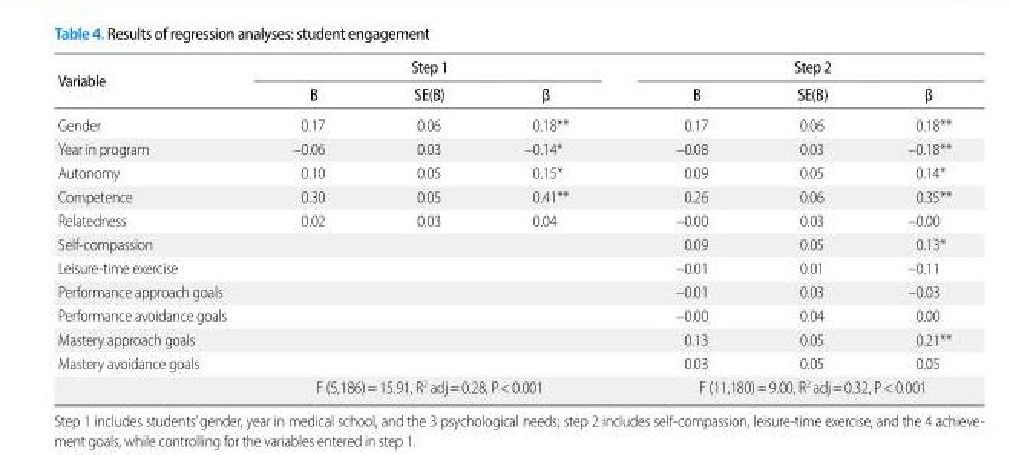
<table><thead><tr><td rowspan="2">Variable</td><td colspan="3">Step 1</td><td colspan="3">Step 2</td></tr><tr><td>B</td><td>SE(B)</td><td>β</td><td>B</td><td>SE(B)</td><td>β</td></tr></thead><tbody><tr><td>Gender</td><td>0.17</td><td>0.06</td><td>0.18**</td><td>0.17</td><td>0.06</td><td>0.18**</td></tr><tr><td>Year in program</td><td>–0.06</td><td>0.03</td><td>–0.14*</td><td>–0.08</td><td>0.03</td><td>–0.18**</td></tr><tr><td>Autonomy</td><td>0.10</td><td>0.05</td><td>0.15*</td><td>0.09</td><td>0.05</td><td>0.14*</td></tr><tr><td>Competence</td><td>0.30</td><td>0.05</td><td>0.41**</td><td>0.26</td><td>0.06</td><td>0.35**</td></tr><tr><td>Relatedness</td><td>0.02</td><td>0.03</td><td>0.04</td><td>–0.00</td><td>0.03</td><td>–0.00</td></tr><tr><td>Self-compassion</td><td></td><td></td><td></td><td>0.09</td><td>0.05</td><td>0.13*</td></tr><tr><td>Leisure-time exercise</td><td></td><td></td><td></td><td>–0.01</td><td>0.01</td><td>–0.11</td></tr><tr><td>Performance approach goals</td><td></td><td></td><td></td><td>–0.01</td><td>0.03</td><td>–0.03</td></tr><tr><td>Performance avoidance goals</td><td></td><td></td><td></td><td>–0.00</td><td>0.04</td><td>0.00</td></tr><tr><td>Mastery approach goals</td><td></td><td></td><td></td><td>0.13</td><td>0.05</td><td>0.21**</td></tr><tr><td rowspan="2">Mastery avoidance goals</td><td></td><td></td><td></td><td>0.03</td><td>0.05</td><td>0.05</td></tr><tr><td colspan="3">F (5,186)=15.91, R<sup>2</sup> adj=0.28, P&lt;0.001</td><td colspan="3">F (11,180)=9.00, R<sup>2</sup> adj=0.32, P&lt;0.001</td></tr></tbody></table>